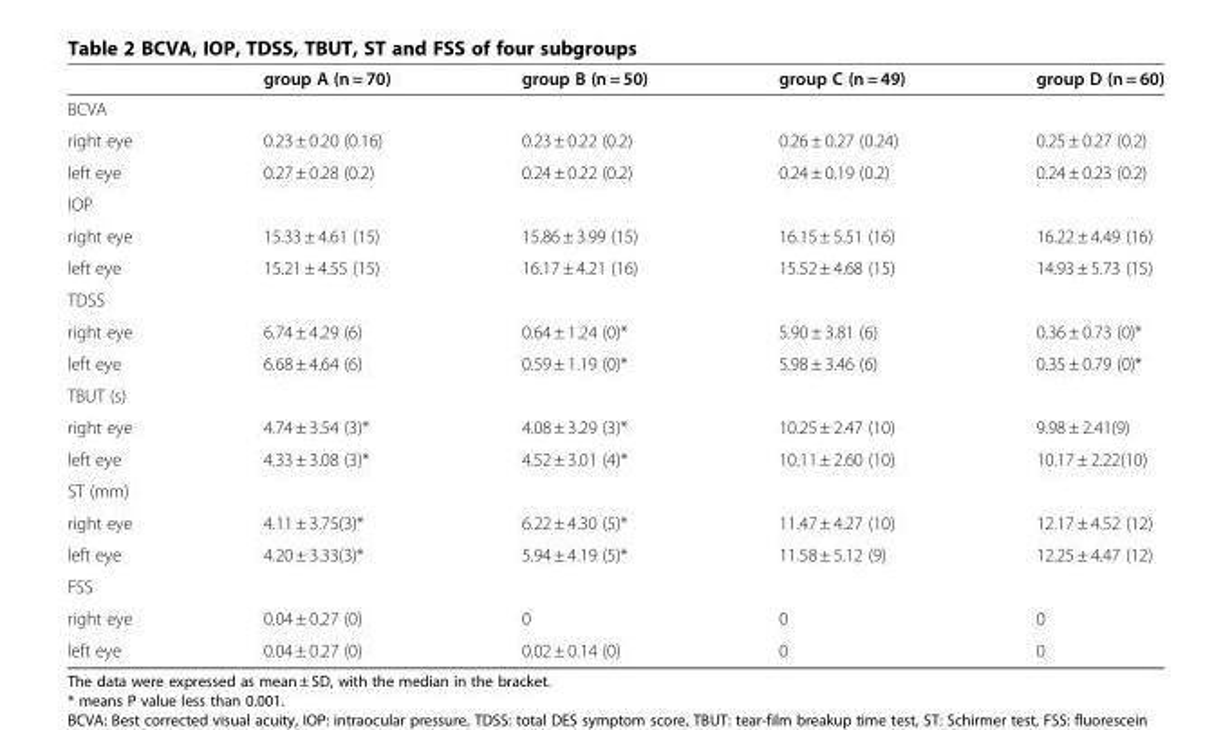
<table><thead><tr><td></td><td>group A (n = 70)</td><td>group B (n = 50)</td><td>group C (n = 49)</td><td>group D (n = 60)</td></tr></thead><tbody><tr><td colspan="5">BCVA</td></tr><tr><td>right eye</td><td>0.23 ± 0.20 (0.16)</td><td>0.23 ± 0.22 (0.2)</td><td>0.26 ± 0.27 (0.24)</td><td>0.25 ± 0.27 (0.2)</td></tr><tr><td>left eye</td><td>0.27 ± 0.28 (0.2)</td><td>0.24 ± 0.22 (0.2)</td><td>0.24 ± 0.19 (0.2)</td><td>0.24 ± 0.23 (0.2)</td></tr><tr><td colspan="5">IOP</td></tr><tr><td>right eye</td><td>15.33 ± 4.61 (15)</td><td>15.86 ± 3.99 (15)</td><td>16.15 ± 5.51 (16)</td><td>16.22 ± 4.49 (16)</td></tr><tr><td>left eye</td><td>15.21 ± 4.55 (15)</td><td>16.17 ± 4.21 (16)</td><td>15.52 ± 4.68 (15)</td><td>14.93 ± 5.73 (15)</td></tr><tr><td colspan="5">TDSS</td></tr><tr><td>right eye</td><td>6.74 ± 4.29 (6)</td><td>0.64 ± 1.24 (0)*</td><td>5.90 ± 3.81 (6)</td><td>0.36 ± 0.73 (0)*</td></tr><tr><td>left eye</td><td>6.68 ± 4.64 (6)</td><td>0.59 ± 1.19 (0)*</td><td>5.98 ± 3.46 (6)</td><td>0.35 ± 0.79 (0)*</td></tr><tr><td colspan="5">TBUT (s)</td></tr><tr><td>right eye</td><td>4.74 ± 3.54 (3)*</td><td>4.08 ± 3.29 (3)*</td><td>10.25 ± 2.47 (10)</td><td>9.98 ± 2.41(9)</td></tr><tr><td>left eye</td><td>4.33 ± 3.08 (3)*</td><td>4.52 ± 3.01 (4)*</td><td>10.11 ± 2.60 (10)</td><td>10.17 ± 2.22(10)</td></tr><tr><td colspan="5">ST (mm)</td></tr><tr><td>right eye</td><td>4.11 ± 3.75(3)*</td><td>6.22 ± 4.30 (5)*</td><td>11.47 ± 4.27 (10)</td><td>12.17 ± 4.52 (12)</td></tr><tr><td>left eye</td><td>4.20 ± 3.33(3)*</td><td>5.94 ± 4.19 (5)*</td><td>11.58 ± 5.12 (9)</td><td>12.25 ± 4.47 (12)</td></tr><tr><td colspan="5">FSS</td></tr><tr><td>right eye</td><td>0.04 ± 0.27 (0)</td><td>0</td><td>0</td><td>0</td></tr><tr><td>left eye</td><td>0.04 ± 0.27 (0)</td><td>0.02 ± 0.14 (0)</td><td>0</td><td>0</td></tr></tbody></table>